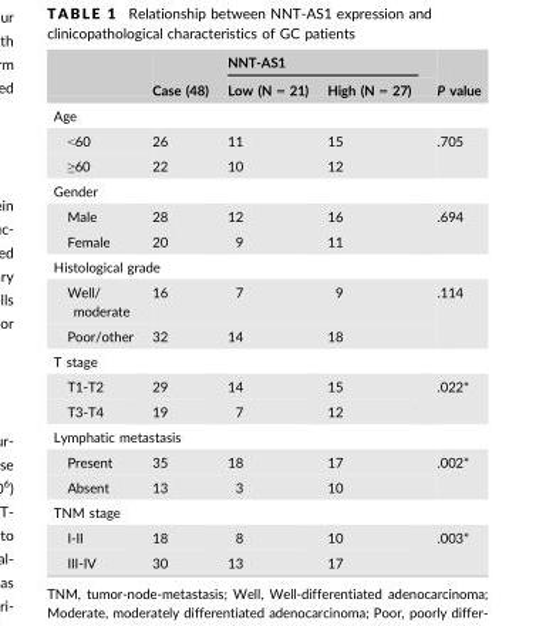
<table><thead><tr><td rowspan="2"></td><td rowspan="2">Case (48)</td><td colspan="2">NNT-AS1</td><td rowspan="2">P value</td></tr><tr><td>Low (N = 21)</td><td>High (N = 27)</td></tr></thead><tbody><tr><td colspan="5">Age</td></tr><tr><td>&lt;60</td><td>26</td><td>11</td><td>15</td><td rowspan="2">.705</td></tr><tr><td>≥60</td><td>22</td><td>10</td><td>12</td></tr><tr><td colspan="5">Gender</td></tr><tr><td>Male</td><td>28</td><td>12</td><td>16</td><td rowspan="2">.694</td></tr><tr><td>Female</td><td>20</td><td>9</td><td>11</td></tr><tr><td colspan="5">Histological grade</td></tr><tr><td>Well/ moderate</td><td>16</td><td>7</td><td>9</td><td rowspan="2">.114</td></tr><tr><td>Poor/other</td><td>32</td><td>14</td><td>18</td></tr><tr><td colspan="5">T stage</td></tr><tr><td>T1-T2</td><td>29</td><td>14</td><td>15</td><td rowspan="2">.022*</td></tr><tr><td>T3-T4</td><td>19</td><td>7</td><td>12</td></tr><tr><td colspan="5">Lymphatic metastasis</td></tr><tr><td>Present</td><td>35</td><td>18</td><td>17</td><td rowspan="2">.002*</td></tr><tr><td>Absent</td><td>13</td><td>3</td><td>10</td></tr><tr><td colspan="5">TNM stage</td></tr><tr><td>I-II</td><td>18</td><td>8</td><td>10</td><td rowspan="2">.003*</td></tr><tr><td>III-IV</td><td>30</td><td>13</td><td>17</td></tr></tbody></table>